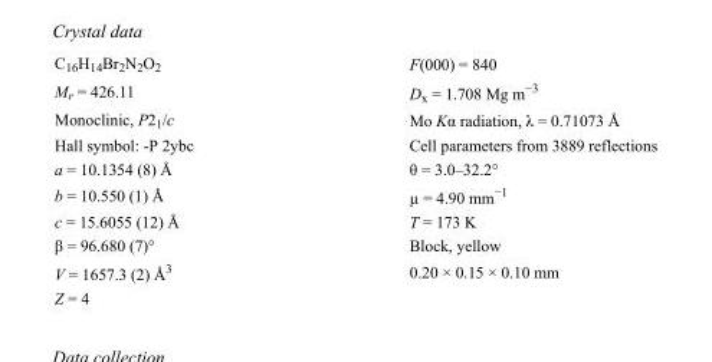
<table><tbody><tr><td>C<sub>16</sub>H<sub>14</sub>Br<sub>2</sub>N<sub>2</sub>O<sub>2</sub></td><td>F(000) = 840</td></tr><tr><td>M<sub>r</sub> = 426.11</td><td>D<sub>x</sub> = 1.708 Mg m<sup>−3</sup></td></tr><tr><td>Monoclinic, P2<sub>1</sub>/c</td><td>Mo Kα radiation, λ = 0.71073 Å</td></tr><tr><td>Hall symbol: -P 2ybc</td><td>Cell parameters from 3889 reflections</td></tr><tr><td>a = 10.1354 (8) Å</td><td>θ = 3.0–32.2°</td></tr><tr><td>b = 10.550 (1) Å</td><td>µ = 4.90 mm<sup>−1</sup></td></tr><tr><td>c = 15.6055 (12) Å</td><td>T = 173 K</td></tr><tr><td>β = 96.680 (7)°</td><td>Block, yellow</td></tr><tr><td>V = 1657.3 (2) Å<sup>3</sup></td><td>0.20 × 0.15 × 0.10 mm</td></tr><tr><td>Z = 4</td><td></td></tr></tbody></table>